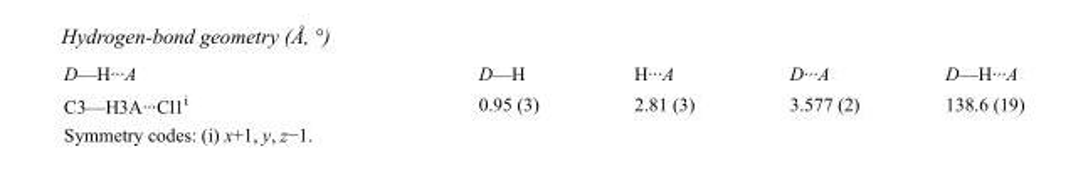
<table><tbody><tr><td>D—H···A</td><td>D—H</td><td>H···A</td><td>D···A</td><td>D—H···A</td></tr><tr><td>C3—H3A···Cl1<sup>i</sup></td><td>0.95 (3)</td><td>2.81 (3)</td><td>3.577 (2)</td><td>138.6 (19)</td></tr></tbody></table>